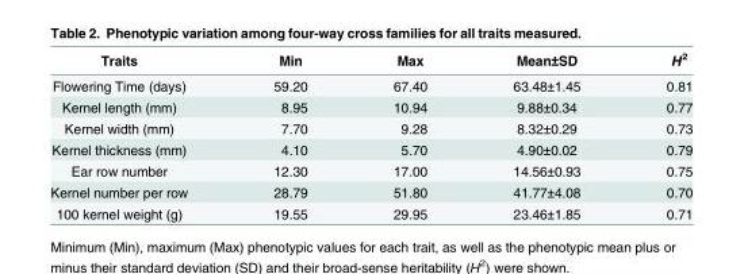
<table><thead><tr><td>Traits</td><td>Min</td><td>Max</td><td>Mean±SD</td><td>H<sup>2</sup></td></tr></thead><tbody><tr><td>Flowering Time (days)</td><td>59.20</td><td>67.40</td><td>63.48±1.45</td><td>0.81</td></tr><tr><td>Kernel length (mm)</td><td>8.95</td><td>10.94</td><td>9.88±0.34</td><td>0.77</td></tr><tr><td>Kernel width (mm)</td><td>7.70</td><td>9.28</td><td>8.32±0.29</td><td>0.73</td></tr><tr><td>Kernel thickness (mm)</td><td>4.10</td><td>5.70</td><td>4.90±0.02</td><td>0.79</td></tr><tr><td>Ear row number</td><td>12.30</td><td>17.00</td><td>14.56±0.93</td><td>0.75</td></tr><tr><td>Kernel number per row</td><td>28.79</td><td>51.80</td><td>41.77±4.08</td><td>0.70</td></tr><tr><td>100 kernel weight (g)</td><td>19.55</td><td>29.95</td><td>23.46±1.85</td><td>0.71</td></tr></tbody></table>